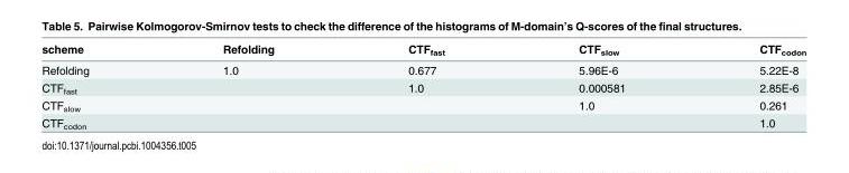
<table><thead><tr><td>scheme</td><td>Refolding</td><td>CTF<sub>fast</sub></td><td>CTF<sub>slow</sub></td><td>CTF<sub>codon</sub></td></tr></thead><tbody><tr><td>Refolding</td><td>1.0</td><td>0.677</td><td>5.96E-6</td><td>5.22E-8</td></tr><tr><td>CTF<sub>fast</sub></td><td></td><td>1.0</td><td>0.000581</td><td>2.85E-6</td></tr><tr><td>CTF<sub>slow</sub></td><td></td><td></td><td>1.0</td><td>0.261</td></tr><tr><td>CTF<sub>codon</sub></td><td></td><td></td><td></td><td>1.0</td></tr></tbody></table>